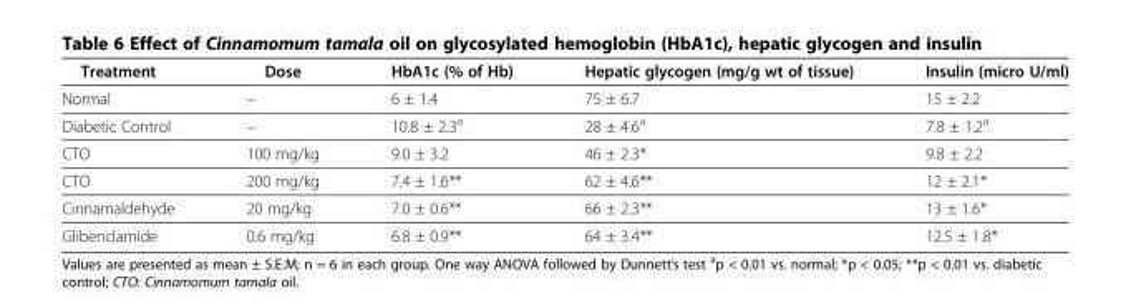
<table><thead><tr><td>Treatment</td><td>Dose</td><td>HbA1c (% of Hb)</td><td>Hepatic glycogen (mg/g wt of tissue)</td><td>Insulin (micro U/ml)</td></tr></thead><tbody><tr><td>Normal</td><td>–</td><td>6 ± 1.4</td><td>75 ± 6.7</td><td>15 ± 2.2</td></tr><tr><td>Diabetic Control</td><td>–</td><td>10.8 ± 2.3<sup>a</sup></td><td>28 ± 4.6<sup>a</sup></td><td>7.8 ± 1.2<sup>a</sup></td></tr><tr><td>CTO</td><td>100 mg/kg</td><td>9.0 ± 3.2</td><td>46 ± 2.3*</td><td>9.8 ± 2.2</td></tr><tr><td>CTO</td><td>200 mg/kg</td><td>7.4 ± 1.6**</td><td>62 ± 4.6**</td><td>12 ± 2.1*</td></tr><tr><td>Cinnamaldehyde</td><td>20 mg/kg</td><td>7.0 ± 0.6**</td><td>66 ± 2.3**</td><td>13 ± 1.6*</td></tr><tr><td>Glibenclamide</td><td>0.6 mg/kg</td><td>6.8 ± 0.9**</td><td>64 ± 3.4**</td><td>12.5 ± 1.8*</td></tr></tbody></table>